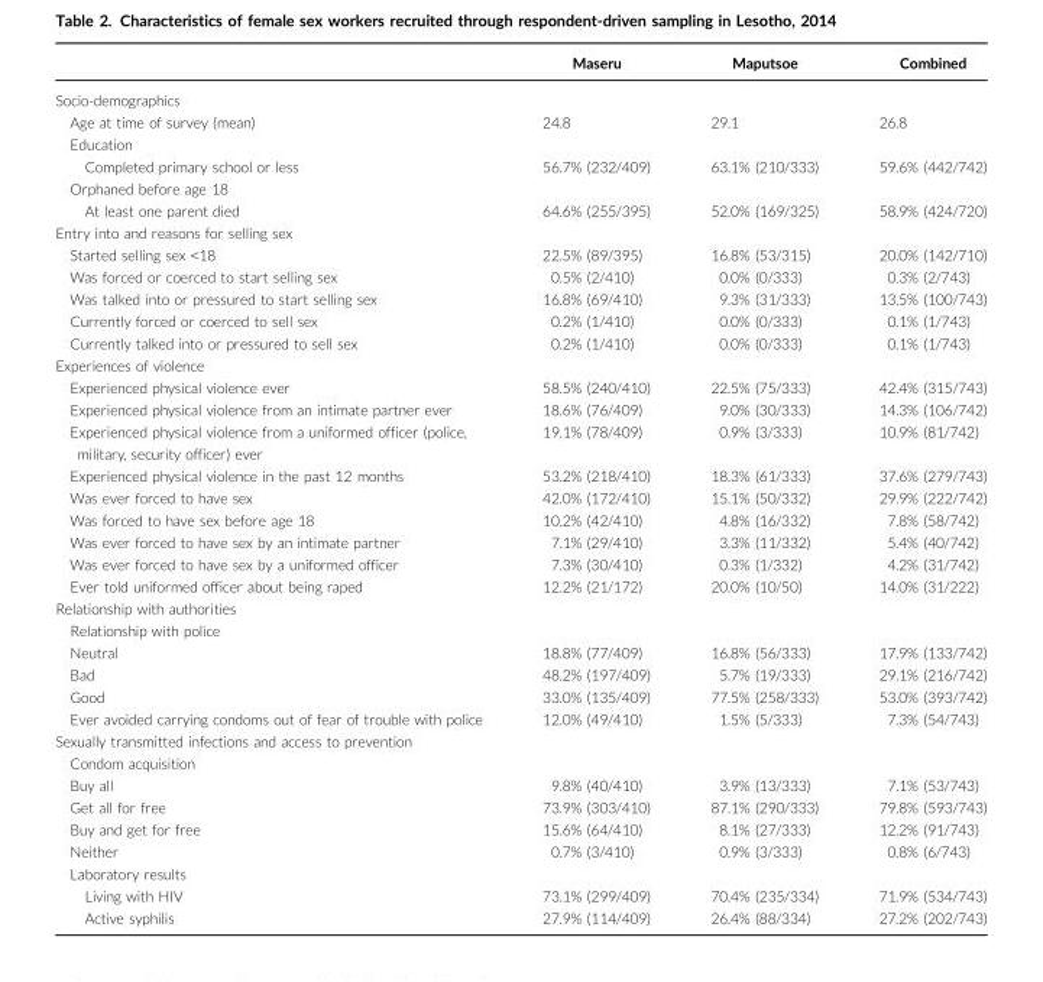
<table><thead><tr><td></td><td>Maseru</td><td>Maputsoe</td><td>Combined</td></tr></thead><tbody><tr><td colspan="4">Socio-demographics</td></tr><tr><td>Age at time of survey (mean)</td><td>24.8</td><td>29.1</td><td>26.8</td></tr><tr><td colspan="4">Education</td></tr><tr><td>Completed primary school or less</td><td>56.7% (232/409)</td><td>63.1% (210/333)</td><td>59.6% (442/742)</td></tr><tr><td colspan="4">Orphaned before age 18</td></tr><tr><td>At least one parent died</td><td>64.6% (255/395)</td><td>52.0% (169/325)</td><td>58.9% (424/720)</td></tr><tr><td colspan="4">Entry into and reasons for selling sex</td></tr><tr><td>Started selling sex &lt;18</td><td>22.5% (89/395)</td><td>16.8% (53/315)</td><td>20.0% (142/710)</td></tr><tr><td>Was forced or coerced to start selling sex</td><td>0.5% (2/410)</td><td>0.0% (0/333)</td><td>0.3% (2/743)</td></tr><tr><td>Was talked into or pressured to start selling sex</td><td>16.8% (69/410)</td><td>9.3% (31/333)</td><td>13.5% (100/743)</td></tr><tr><td>Currently forced or coerced to sell sex</td><td>0.2% (1/410)</td><td>0.0% (0/333)</td><td>0.1% (1/743)</td></tr><tr><td>Currently talked into or pressured to sell sex</td><td>0.2% (1/410)</td><td>0.0% (0/333)</td><td>0.1% (1/743)</td></tr><tr><td colspan="4">Experiences of violence</td></tr><tr><td>Experienced physical violence ever</td><td>58.5% (240/410)</td><td>22.5% (75/333)</td><td>42.4% (315/743)</td></tr><tr><td>Experienced physical violence from an intimate partner ever</td><td>18.6% (76/409)</td><td>9.0% (30/333)</td><td>14.3% (106/742)</td></tr><tr><td>Experienced physical violence from a uniformed officer (police, military, security officer) ever</td><td>19.1% (78/409)</td><td>0.9% (3/333)</td><td>10.9% (81/742)</td></tr><tr><td>Experienced physical violence in the past 12 months</td><td>53.2% (218/410)</td><td>18.3% (61/333)</td><td>37.6% (279/743)</td></tr><tr><td>Was ever forced to have sex</td><td>42.0% (172/410)</td><td>15.1% (50/332)</td><td>29.9% (222/742)</td></tr><tr><td>Was forced to have sex before age 18</td><td>10.2% (42/410)</td><td>4.8% (16/332)</td><td>7.8% (58/742)</td></tr><tr><td>Was ever forced to have sex by an intimate partner</td><td>7.1% (29/410)</td><td>3.3% (11/332)</td><td>5.4% (40/742)</td></tr><tr><td>Was ever forced to have sex by a uniformed officer</td><td>7.3% (30/410)</td><td>0.3% (1/332)</td><td>4.2% (31/742)</td></tr><tr><td>Ever told uniformed officer about being raped</td><td>12.2% (21/172)</td><td>20.0% (10/50)</td><td>14.0% (31/222)</td></tr><tr><td colspan="4">Relationship with authorities</td></tr><tr><td colspan="4">Relationship with police</td></tr><tr><td>Neutral</td><td>18.8% (77/409)</td><td>16.8% (56/333)</td><td>17.9% (133/742)</td></tr><tr><td>Bad</td><td>48.2% (197/409)</td><td>5.7% (19/333)</td><td>29.1% (216/742)</td></tr><tr><td>Good</td><td>33.0% (135/409)</td><td>77.5% (258/333)</td><td>53.0% (393/742)</td></tr><tr><td>Ever avoided carrying condoms out of fear of trouble with police</td><td>12.0% (49/410)</td><td>1.5% (5/333)</td><td>7.3% (54/743)</td></tr><tr><td colspan="4">Sexually transmitted infections and access to prevention</td></tr><tr><td colspan="4">Condom acquisition</td></tr><tr><td>Buy all</td><td>9.8% (40/410)</td><td>3.9% (13/333)</td><td>7.1% (53/743)</td></tr><tr><td>Get all for free</td><td>73.9% (303/410)</td><td>87.1% (290/333)</td><td>79.8% (593/743)</td></tr><tr><td>Buy and get for free</td><td>15.6% (64/410)</td><td>8.1% (27/333)</td><td>12.2% (91/743)</td></tr><tr><td>Neither</td><td>0.7% (3/410)</td><td>0.9% (3/333)</td><td>0.8% (6/743)</td></tr><tr><td colspan="4">Laboratory results</td></tr><tr><td>Living with HIV</td><td>73.1% (299/409)</td><td>70.4% (235/334)</td><td>71.9% (534/743)</td></tr><tr><td>Active syphilis</td><td>27.9% (114/409)</td><td>26.4% (88/334)</td><td>27.2% (202/743)</td></tr></tbody></table>